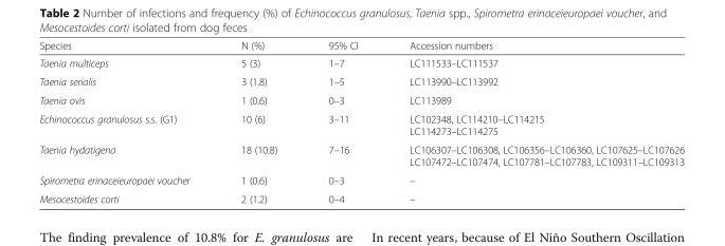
<table><thead><tr><td>Species</td><td>N (%)</td><td>95% CI</td><td>Accession numbers</td></tr></thead><tbody><tr><td>Taenia multiceps</td><td>5 (3)</td><td>1–7</td><td>LC111533–LC111537</td></tr><tr><td>Taenia serialis</td><td>3 (1.8)</td><td>1–5</td><td>LC113990–LC113992</td></tr><tr><td>Taenia ovis</td><td>1 (0.6)</td><td>0–3</td><td>LC113989</td></tr><tr><td>Echinococcus granulosus s.s. (G1)</td><td>10 (6)</td><td>3–11</td><td>LC102348, LC114210–LC114215 LC114273–LC114275</td></tr><tr><td>Taenia hydatigena</td><td>18 (10.8)</td><td>7–16</td><td>LC106307–LC106308, LC106356–LC106360, LC107625–LC107626 LC107472–LC107474, LC107781–LC107783, LC109311–LC109313</td></tr><tr><td>Spirometra erinaceieuropaei voucher</td><td>1 (0.6)</td><td>0–3</td><td>–</td></tr><tr><td>Mesocestoides corti</td><td>2 (1.2)</td><td>0–4</td><td>–</td></tr></tbody></table>